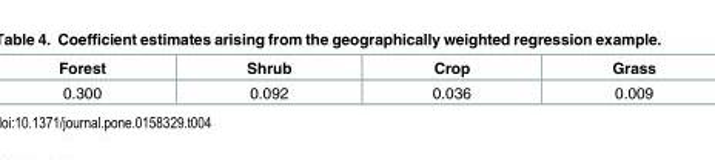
<table><thead><tr><td>Forest</td><td>Shrub</td><td>Crop</td><td>Grass</td></tr></thead><tbody><tr><td>0.300</td><td>0.092</td><td>0.036</td><td>0.009</td></tr></tbody></table>